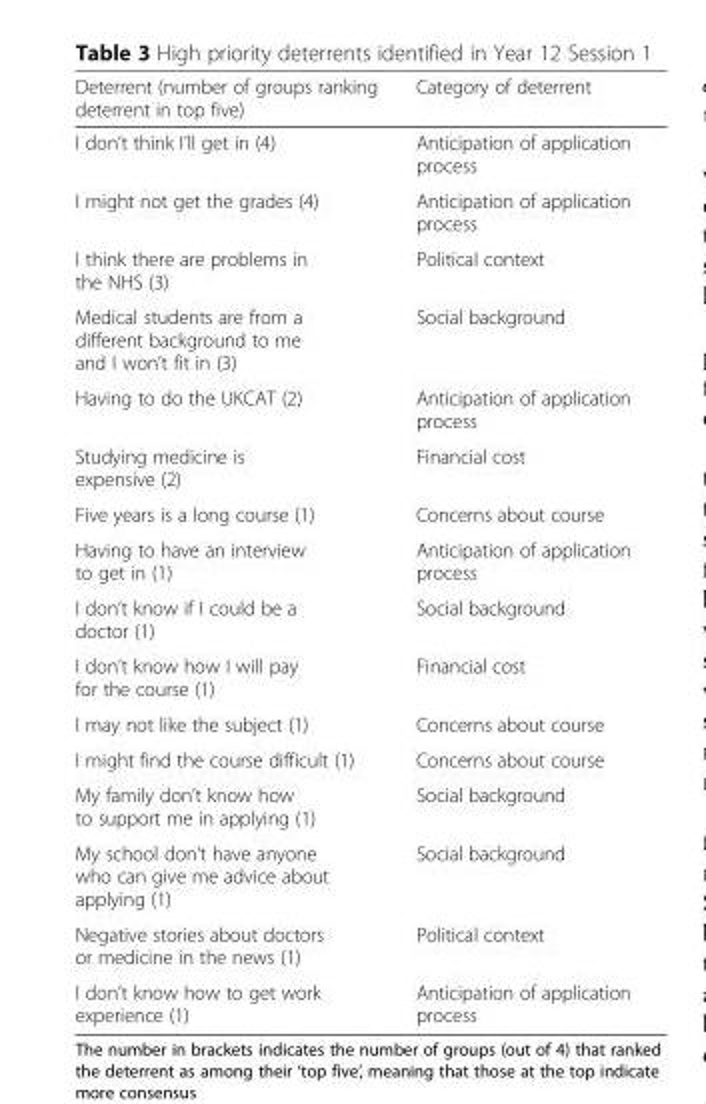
<table><thead><tr><td>Deterrent (number of groups ranking deterrent in top five)</td><td>Category of deterrent</td></tr></thead><tbody><tr><td>I don’t think I’ll get in (4)</td><td>Anticipation of application process</td></tr><tr><td>I might not get the grades (4)</td><td>Anticipation of application process</td></tr><tr><td>I think there are problems in the NHS (3)</td><td>Political context</td></tr><tr><td>Medical students are from a different background to me and I won’t fit in (3)</td><td>Social background</td></tr><tr><td>Having to do the UKCAT (2)</td><td>Anticipation of application process</td></tr><tr><td>Studying medicine is expensive (2)</td><td>Financial cost</td></tr><tr><td>Five years is a long course (1)</td><td>Concerns about course</td></tr><tr><td>Having to have an interview to get in (1)</td><td>Anticipation of application process</td></tr><tr><td>I don’t know if I could be a doctor (1)</td><td>Social background</td></tr><tr><td>I don’t know how I will pay for the course (1)</td><td>Financial cost</td></tr><tr><td>I may not like the subject (1)</td><td>Concerns about course</td></tr><tr><td>I might find the course difficult (1)</td><td>Concerns about course</td></tr><tr><td>My family don’t know how to support me in applying (1)</td><td>Social background</td></tr><tr><td>My school don’t have anyone who can give me advice about applying (1)</td><td>Social background</td></tr><tr><td>Negative stories about doctors or medicine in the news (1)</td><td>Political context</td></tr><tr><td>I don’t know how to get work experience (1)</td><td>Anticipation of application process</td></tr></tbody></table>